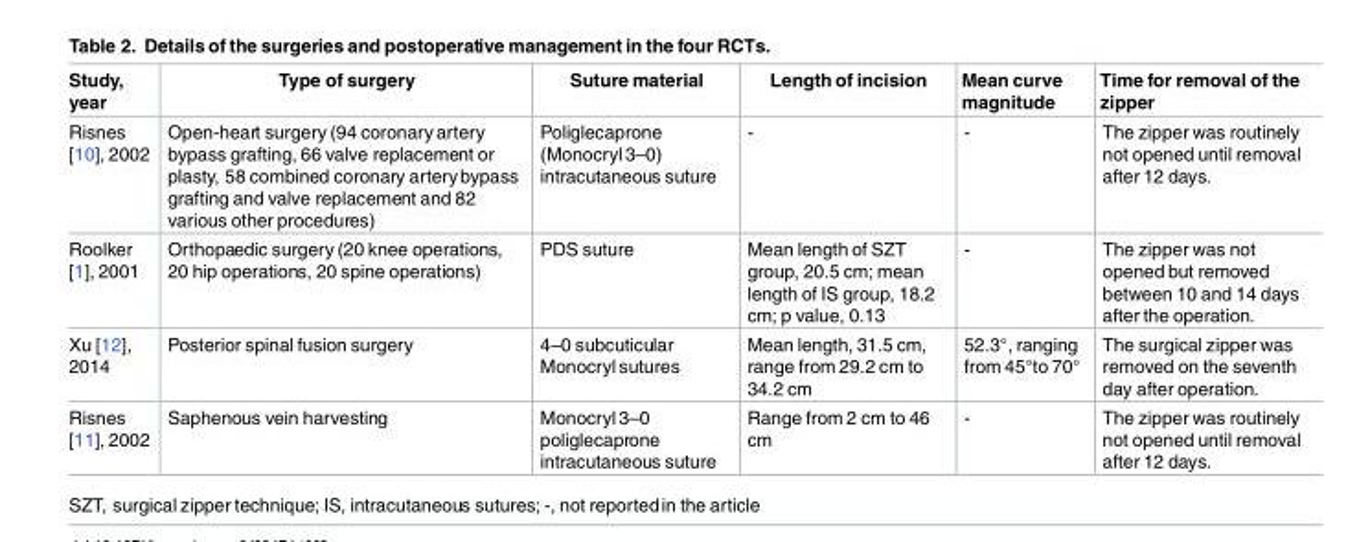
<table><thead><tr><td>Study, year</td><td>Type of surgery</td><td>Suture material</td><td>Length of incision</td><td>Mean curve magnitude</td><td>Time for removal of the zipper</td></tr></thead><tbody><tr><td>Risnes [10], 2002</td><td>Open-heart surgery (94 coronaryartery bypass grafting, 66 valve replacement or plasty, 58 combined coronary arterybypass grafting and valve replacement and 82 various other procedures)</td><td>Poliglecaprone (Monocryl3–0) intracutaneous suture</td><td>-</td><td>-</td><td>The zipper was routinely not opened until removal after 12 days.</td></tr><tr><td>Roolker [1], 2001</td><td>Orthopaedic surgery (20 knee operations, 20 hip operations, 20 spine operations)</td><td>PDS suture</td><td>Mean length of SZT group, 20.5 cm; mean length of IS group, 18.2 cm; p value, 0.13</td><td>-</td><td>The zipper was not opened but removed between 10 and 14 days after the operation.</td></tr><tr><td>Xu [12], 2014</td><td>Posterior spinal fusion surgery</td><td>4–0 subcuticular Monocryl sutures</td><td>Mean length, 31.5 cm, range from 29.2 cm to 34.2 cm</td><td>52.3°, ranging from 45°to 70°</td><td>The surgical zipper was removed on the seventh day after operation.</td></tr><tr><td>Risnes [11], 2002</td><td>Saphenous vein harvesting</td><td>Monocryl 3–0 poliglecaprone intracutaneous suture</td><td>Range from 2 cm to 46 cm</td><td>-</td><td>The zipper was routinely not opened until removal after 12 days.</td></tr></tbody></table>